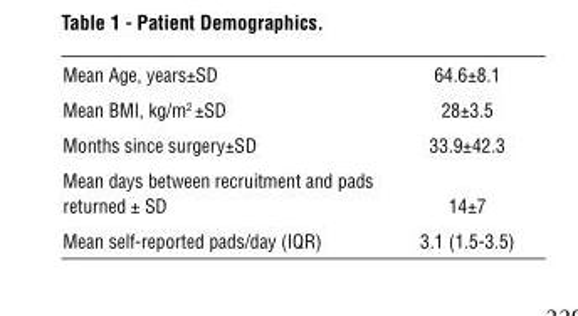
<table><tbody><tr><td>Mean Age, years±SD</td><td>64.6±8.1</td></tr><tr><td>Mean BMI, kg/m<sup>2</sup> ±SD</td><td>28±3.5</td></tr><tr><td>Months since surgery±SD</td><td>33.9±42.3</td></tr><tr><td>Mean days between recruitment and pads returned ± SD</td><td>14±7</td></tr><tr><td>Mean self-reported pads/day (IQR)</td><td>3.1 (1.5-3.5)</td></tr></tbody></table>